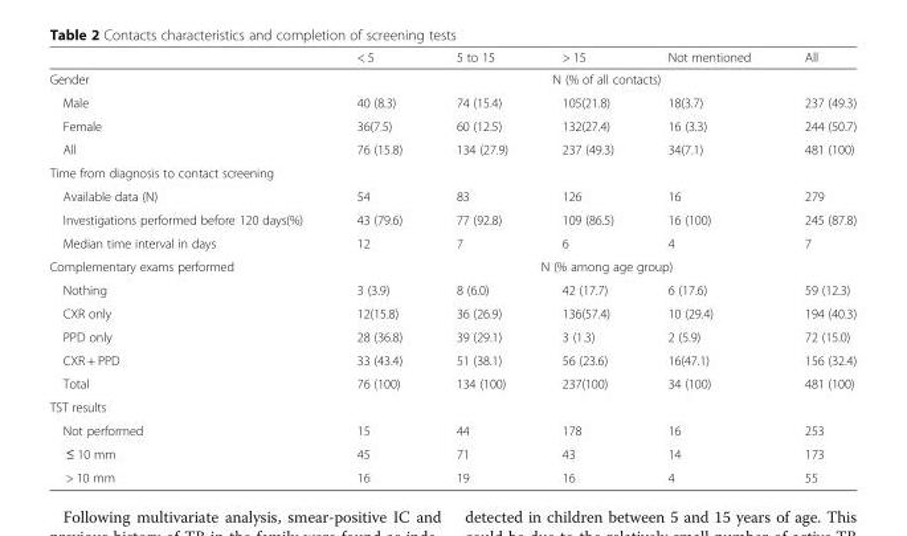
<table><thead><tr><td></td><td>&lt; 5</td><td>5 to 15</td><td>&gt; 15</td><td>Not mentioned</td><td>All</td></tr></thead><tbody><tr><td>Gender</td><td colspan="5">N (% of all contacts)</td></tr><tr><td>Male</td><td>40 (8.3)</td><td>74 (15.4)</td><td>105(21.8)</td><td>18(3.7)</td><td>237 (49.3)</td></tr><tr><td>Female</td><td>36(7.5)</td><td>60 (12.5)</td><td>132(27.4)</td><td>16 (3.3)</td><td>244 (50.7)</td></tr><tr><td>All</td><td>76 (15.8)</td><td>134 (27.9)</td><td>237 (49.3)</td><td>34(7.1)</td><td>481 (100)</td></tr><tr><td colspan="6">Time from diagnosis to contact screening</td></tr><tr><td>Available data (N)</td><td>54</td><td>83</td><td>126</td><td>16</td><td>279</td></tr><tr><td>Investigations performed before 120 days(%)</td><td>43 (79.6)</td><td>77 (92.8)</td><td>109 (86.5)</td><td>16 (100)</td><td>245 (87.8)</td></tr><tr><td>Median time interval in days</td><td>12</td><td>7</td><td>6</td><td>4</td><td>7</td></tr><tr><td>Complementary exams performed</td><td colspan="5">N (% among age group)</td></tr><tr><td>Nothing</td><td>3 (3.9)</td><td>8 (6.0)</td><td>42 (17.7)</td><td>6 (17.6)</td><td>59 (12.3)</td></tr><tr><td>CXR only</td><td>12(15.8)</td><td>36 (26.9)</td><td>136(57.4)</td><td>10 (29.4)</td><td>194 (40.3)</td></tr><tr><td>PPD only</td><td>28 (36.8)</td><td>39 (29.1)</td><td>3 (1.3)</td><td>2 (5.9)</td><td>72 (15.0)</td></tr><tr><td>CXR + PPD</td><td>33 (43.4)</td><td>51 (38.1)</td><td>56 (23.6)</td><td>16(47.1)</td><td>156 (32.4)</td></tr><tr><td>Total</td><td>76 (100)</td><td>134 (100)</td><td>237(100)</td><td>34 (100)</td><td>481 (100)</td></tr><tr><td colspan="6">TST results</td></tr><tr><td>Not performed</td><td>15</td><td>44</td><td>178</td><td>16</td><td>253</td></tr><tr><td>≤ 10 mm</td><td>45</td><td>71</td><td>43</td><td>14</td><td>173</td></tr><tr><td>&gt; 10 mm</td><td>16</td><td>19</td><td>16</td><td>4</td><td>55</td></tr></tbody></table>